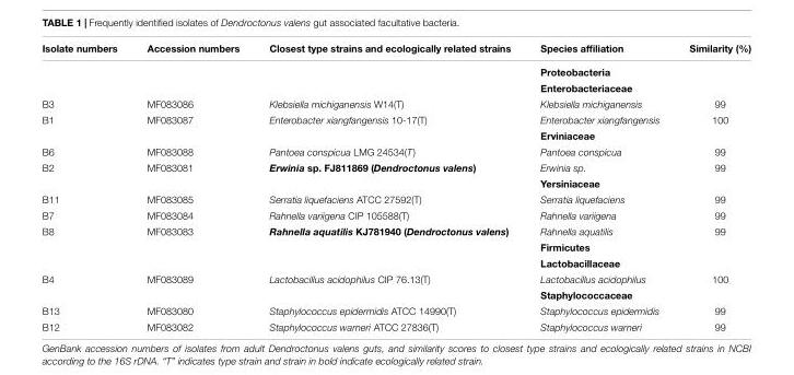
<table><thead><tr><td>Isolate numbers</td><td>Accession numbers</td><td>Closest type strains and ecologically related strains</td><td>Species affiliation</td><td>Similarity (%)</td></tr></thead><tbody><tr><td></td><td></td><td></td><td>Proteobacteria</td><td></td></tr><tr><td></td><td></td><td></td><td>Enterobacteriaceae</td><td></td></tr><tr><td>B3</td><td>MF083086</td><td>Klebsiella michiganensis W14(T)</td><td>Klebsiella michiganensis</td><td>99</td></tr><tr><td rowspan="2">B1</td><td>MF083087</td><td>Enterobacter xiangfangensis 10-17(T)</td><td>Enterobacter xiangfangensis</td><td>100</td></tr><tr><td></td><td></td><td>Erviniaceae</td><td></td></tr><tr><td>B6</td><td>MF083088</td><td>Pantoea conspicua LMG 24534(T)</td><td>Pantoea conspicua</td><td>99</td></tr><tr><td rowspan="2">B2</td><td>MF083081</td><td>Erwinia sp. FJ811869 (Dendroctonus valens)</td><td>Erwinia sp.</td><td>99</td></tr><tr><td></td><td></td><td>Yersiniaceae</td><td></td></tr><tr><td>B11</td><td>MF083085</td><td>Serratia liquefaciens ATCC 27592(T)</td><td>Serratia liquefaciens</td><td>99</td></tr><tr><td>B7</td><td>MF083084</td><td>Rahnella variigena CIP 105588(T)</td><td>Rahnella variigena</td><td>99</td></tr><tr><td rowspan="3">B8</td><td>MF083083</td><td>Rahnella aquatilis KJ781940 (Dendroctonus valens)</td><td>Rahnella aquatilis</td><td>99</td></tr><tr><td></td><td></td><td>Firmicutes</td><td></td></tr><tr><td></td><td></td><td>Lactobacillaceae</td><td></td></tr><tr><td rowspan="2">B4</td><td>MF083089</td><td>Lactobacillus acidophilus CIP 76.13(T)</td><td>Lactobacillus acidophilus</td><td>100</td></tr><tr><td></td><td></td><td>Staphylococcaceae</td><td></td></tr><tr><td>B13</td><td>MF083080</td><td>Staphylococcus epidermidis ATCC 14990(T)</td><td>Staphylococcus epidermidis</td><td>99</td></tr><tr><td>B12</td><td>MF083082</td><td>Staphylococcus warneri ATCC 27836(T)</td><td>Staphylococcus warneri</td><td>99</td></tr></tbody></table>